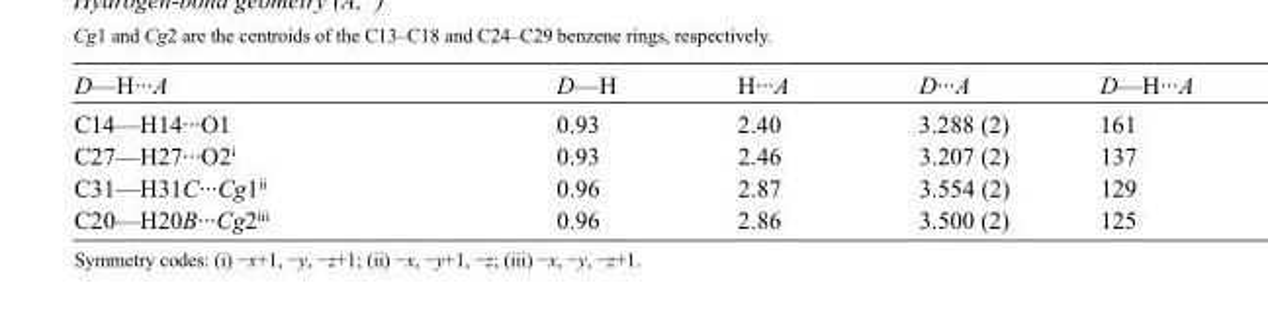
<table><tbody><tr><td>D—H···A</td><td>D—H</td><td>H···A</td><td>D···A</td><td>D—H···A</td></tr><tr><td>C14—H14···O1</td><td>0.93</td><td>2.40</td><td>3.288 (2)</td><td>161</td></tr><tr><td>C27—H27···O2<sup>i</sup></td><td>0.93</td><td>2.46</td><td>3.207 (2)</td><td>137</td></tr><tr><td>C31—H31C···Cg1<sup>ii</sup></td><td>0.96</td><td>2.87</td><td>3.554 (2)</td><td>129</td></tr><tr><td>C20—H20B···Cg2<sup>iii</sup></td><td>0.96</td><td>2.86</td><td>3.500 (2)</td><td>125</td></tr></tbody></table>